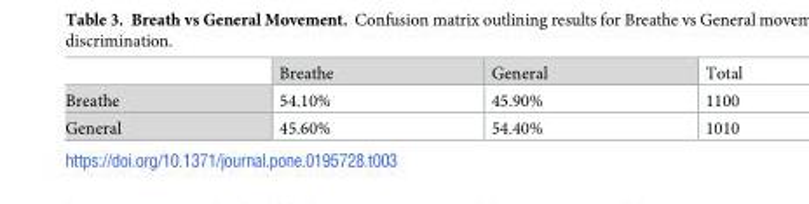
<table><thead><tr><td></td><td>Breathe</td><td>General</td><td>Total</td></tr></thead><tbody><tr><td>Breathe</td><td>54.10%</td><td>45.90%</td><td>1100</td></tr><tr><td>General</td><td>45.60%</td><td>54.40%</td><td>1010</td></tr></tbody></table>